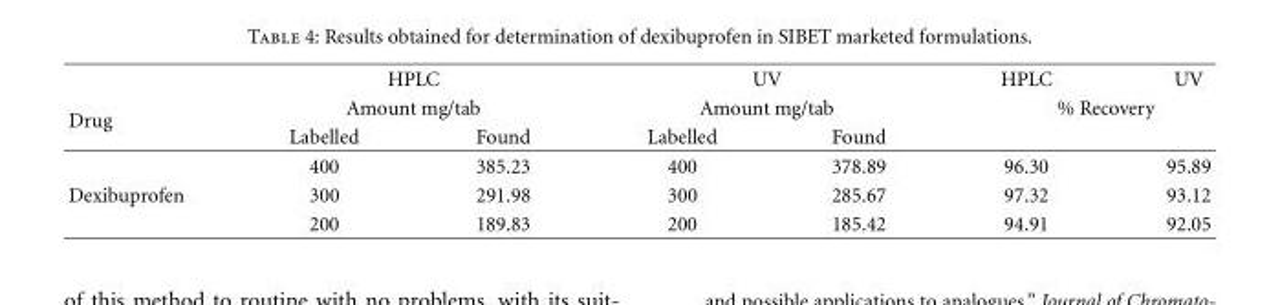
<table><thead><tr><td rowspan="3">Drug</td><td rowspan="2" colspan="2">HPLC Amount mg/tab</td><td rowspan="2" colspan="2">UV Amount mg/tab</td><td>HPLC</td><td>UV</td></tr><tr><td colspan="2">% Recovery</td></tr><tr><td>Labelled</td><td>Found</td><td>Labelled</td><td>Found</td><td></td><td></td></tr></thead><tbody><tr><td></td><td>400</td><td>385.23</td><td>400</td><td>378.89</td><td>96.30</td><td>95.89</td></tr><tr><td rowspan="2">Dexibuprofen</td><td>300</td><td>291.98</td><td>300</td><td>285.67</td><td>97.32</td><td>93.12</td></tr><tr><td>200</td><td>189.83</td><td>200</td><td>185.42</td><td>94.91</td><td>92.05</td></tr></tbody></table>